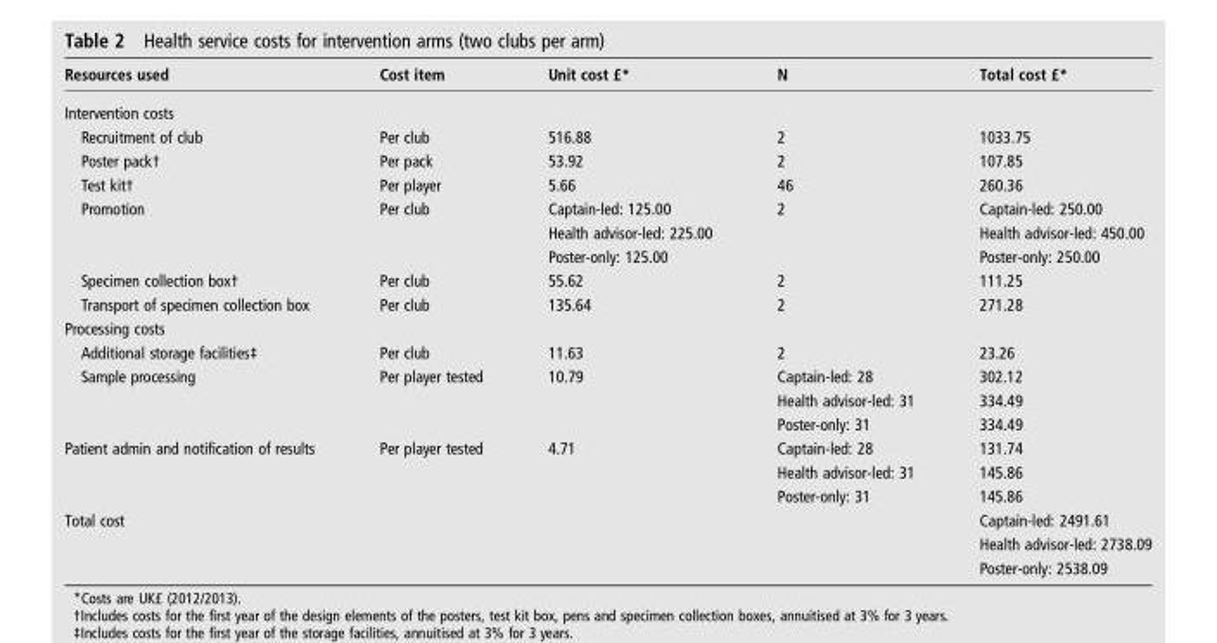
<table><thead><tr><td>Resources used</td><td>Cost item</td><td>Unit cost £*</td><td>N</td><td>Total cost £*</td></tr></thead><tbody><tr><td colspan="5">Intervention costs</td></tr><tr><td>Recruitment of club</td><td>Per club</td><td>516.88</td><td>2</td><td>1033.75</td></tr><tr><td>Poster pack†</td><td>Per pack</td><td>53.92</td><td>2</td><td>107.85</td></tr><tr><td>Test kit†</td><td>Per player</td><td>5.66</td><td>46</td><td>260.36</td></tr><tr><td rowspan="3">Promotion</td><td>Per club</td><td>Captain-led: 125.00</td><td>2</td><td>Captain-led: 250.00</td></tr><tr><td></td><td>Health advisor-led: 225.00</td><td></td><td>Health advisor-led: 450.00</td></tr><tr><td></td><td>Poster-only: 125.00</td><td></td><td>Poster-only: 250.00</td></tr><tr><td>Specimen collection box†</td><td>Per club</td><td>55.62</td><td>2</td><td>111.25</td></tr><tr><td>Transport of specimen collection box</td><td>Per club</td><td>135.64</td><td>2</td><td>271.28</td></tr><tr><td colspan="5">Processing costs</td></tr><tr><td>Additional storage facilities‡</td><td>Per club</td><td>11.63</td><td>2</td><td>23.26</td></tr><tr><td rowspan="3">Sample processing</td><td>Per player tested</td><td>10.79</td><td>Captain-led: 28</td><td>302.12</td></tr><tr><td></td><td></td><td>Health advisor-led: 31</td><td>334.49</td></tr><tr><td></td><td></td><td>Poster-only: 31</td><td>334.49</td></tr><tr><td rowspan="3">Patient admin and notification of results</td><td>Per player tested</td><td>4.71</td><td>Captain-led: 28</td><td>131.74</td></tr><tr><td></td><td></td><td>Health advisor-led: 31</td><td>145.86</td></tr><tr><td></td><td></td><td>Poster-only: 31</td><td>145.86</td></tr><tr><td rowspan="3">Total cost</td><td></td><td></td><td></td><td>Captain-led: 2491.61</td></tr><tr><td></td><td></td><td></td><td>Health advisor-led: 2738.09</td></tr><tr><td></td><td></td><td></td><td>Poster-only: 2538.09</td></tr></tbody></table>